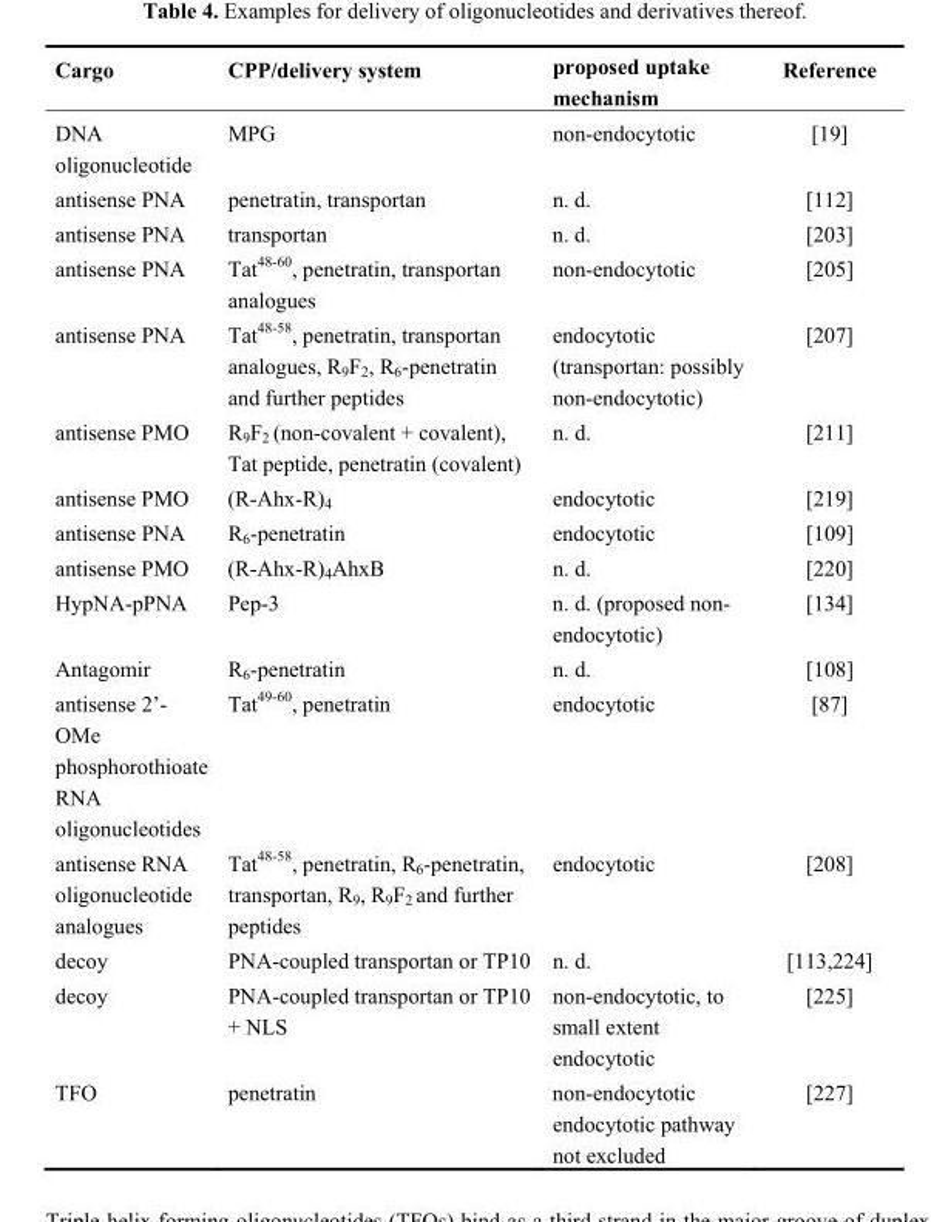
<table><thead><tr><td>Cargo</td><td>CPP/delivery system</td><td>proposed uptake mechanism</td><td>Reference</td></tr></thead><tbody><tr><td>DNA oligonucleotide</td><td>MPG</td><td>non-endocytotic</td><td>[19]</td></tr><tr><td>antisense PNA</td><td>penetratin, transportan</td><td>n. d.</td><td>[112]</td></tr><tr><td>antisense PNA</td><td>transportan</td><td>n. d.</td><td>[203]</td></tr><tr><td>antisense PNA</td><td>Tat<sup>48-60</sup>, penetratin, transportan analogues</td><td>non-endocytotic</td><td>[205]</td></tr><tr><td>antisense PNA</td><td>Tat<sup>48-58</sup>, penetratin, transportan analogues, R<sub>9</sub>F<sub>2</sub>, R<sub>6</sub>-penetratin and further peptides</td><td>endocytotic (transportan: possibly non-endocytotic)</td><td>[207]</td></tr><tr><td>antisense PMO</td><td>R<sub>9</sub>F<sub>2</sub> (non-covalent + covalent), Tat peptide, penetratin (covalent)</td><td>n. d.</td><td>[211]</td></tr><tr><td>antisense PMO</td><td>(R-Ahx-R)<sub>4</sub></td><td>endocytotic</td><td>[219]</td></tr><tr><td>antisense PNA</td><td>R<sub>6</sub>-penetratin</td><td>endocytotic</td><td>[109]</td></tr><tr><td>antisense PMO</td><td>(R-Ahx-R)<sub>4</sub>AhxB</td><td>n. d.</td><td>[220]</td></tr><tr><td>HypNA-pPNA</td><td>Pep-3</td><td>n. d. (proposed non- endocytotic)</td><td>[134]</td></tr><tr><td>Antagomir</td><td>R<sub>6</sub>-penetratin</td><td>n. d.</td><td>[108]</td></tr><tr><td>antisense 2’- OMe phosphorothioate RNA oligonucleotides</td><td>Tat<sup>49-60</sup>, penetratin</td><td>endocytotic</td><td>[87]</td></tr><tr><td>antisense RNA oligonucleotide analogues</td><td>Tat<sup>48-58</sup>, penetratin, R<sub>6</sub>-penetratin, transportan, R<sub>9</sub>, R<sub>9</sub>F<sub>2</sub> and further peptides</td><td>endocytotic</td><td>[208]</td></tr><tr><td>decoy</td><td>PNA-coupled transportan or TP10</td><td>n. d.</td><td>[113,224]</td></tr><tr><td>decoy</td><td>PNA-coupled transportan or TP10 + NLS</td><td>non-endocytotic, to small extent endocytotic</td><td>[225]</td></tr><tr><td>TFO</td><td>penetratin</td><td>non-endocytotic endocytotic pathway not excluded</td><td>[227]</td></tr></tbody></table>